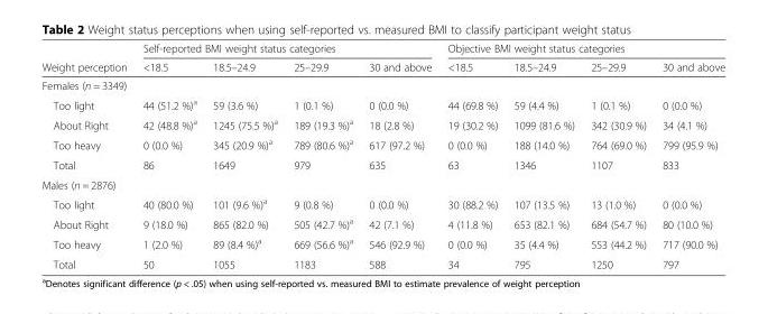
<table><thead><tr><td rowspan="2">Weight perception</td><td colspan="4">Self-reported BMI weight status categories</td><td colspan="4">Objective BMI weight status categories</td></tr><tr><td>&lt;18.5</td><td>18.5–24.9</td><td>25–29.9</td><td>30 and above</td><td>&lt;18.5</td><td>18.5–24.9</td><td>25–29.9</td><td>30 and above</td></tr></thead><tbody><tr><td colspan="9">Females (n = 3349)</td></tr><tr><td>Too light</td><td>44 (51.2 %)<sup>a</sup></td><td>59 (3.6 %)</td><td>1 (0.1 %)</td><td>0 (0.0 %)</td><td>44 (69.8 %)</td><td>59 (4.4 %)</td><td>1 (0.1 %)</td><td>0 (0.0 %)</td></tr><tr><td>About Right</td><td>42 (48.8 %)<sup>a</sup></td><td>1245 (75.5 %)<sup>a</sup></td><td>189 (19.3 %)<sup>a</sup></td><td>18 (2.8 %)</td><td>19 (30.2 %)</td><td>1099 (81.6 %)</td><td>342 (30.9 %)</td><td>34 (4.1 %)</td></tr><tr><td>Too heavy</td><td>0 (0.0 %)</td><td>345 (20.9 %)<sup>a</sup></td><td>789 (80.6 %)<sup>a</sup></td><td>617 (97.2 %)</td><td>0 (0.0 %)</td><td>188 (14.0 %)</td><td>764 (69.0 %)</td><td>799 (95.9 %)</td></tr><tr><td>Total</td><td>86</td><td>1649</td><td>979</td><td>635</td><td>63</td><td>1346</td><td>1107</td><td>833</td></tr><tr><td colspan="9">Males (n = 2876)</td></tr><tr><td>Too light</td><td>40 (80.0 %)</td><td>101 (9.6 %)<sup>a</sup></td><td>9 (0.8 %)</td><td>0 (0.0 %)</td><td>30 (88.2 %)</td><td>107 (13.5 %)</td><td>13 (1.0 %)</td><td>0 (0.0 %)</td></tr><tr><td>About Right</td><td>9 (18.0 %)</td><td>865 (82.0 %)</td><td>505 (42.7 %)<sup>a</sup></td><td>42 (7.1 %)</td><td>4 (11.8 %)</td><td>653 (82.1 %)</td><td>684 (54.7 %)</td><td>80 (10.0 %)</td></tr><tr><td>Too heavy</td><td>1 (2.0 %)</td><td>89 (8.4 %)<sup>a</sup></td><td>669 (56.6 %)<sup>a</sup></td><td>546 (92.9 %)</td><td>0 (0.0 %)</td><td>35 (4.4 %)</td><td>553 (44.2 %)</td><td>717 (90.0 %)</td></tr><tr><td>Total</td><td>50</td><td>1055</td><td>1183</td><td>588</td><td>34</td><td>795</td><td>1250</td><td>797</td></tr></tbody></table>